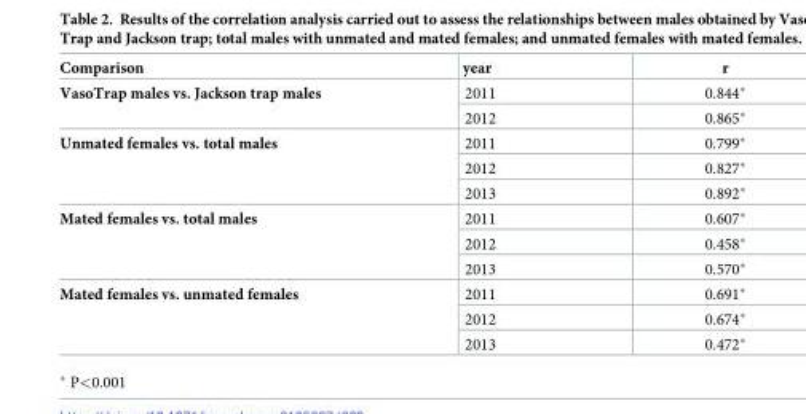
<table><thead><tr><td>Comparison</td><td>year</td><td>r</td></tr></thead><tbody><tr><td rowspan="2">VasoTrap males vs. Jackson trap males</td><td>2011</td><td>0.844*</td></tr><tr><td>2012</td><td>0.865*</td></tr><tr><td rowspan="3">Unmated females vs. total males</td><td>2011</td><td>0.799*</td></tr><tr><td>2012</td><td>0.827*</td></tr><tr><td>2013</td><td>0.892*</td></tr><tr><td rowspan="3">Mated females vs. total males</td><td>2011</td><td>0.607*</td></tr><tr><td>2012</td><td>0.458*</td></tr><tr><td>2013</td><td>0.570*</td></tr><tr><td rowspan="3">Mated females vs. unmated females</td><td>2011</td><td>0.691*</td></tr><tr><td>2012</td><td>0.674*</td></tr><tr><td>2013</td><td>0.472*</td></tr></tbody></table>